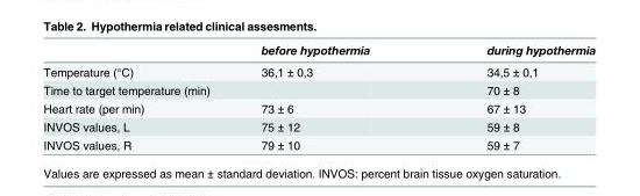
<table><thead><tr><td></td><td>before hypothermia</td><td>during hypothermia</td></tr></thead><tbody><tr><td>Temperature (°C)</td><td>36,1 ± 0,3</td><td>34,5 ± 0,1</td></tr><tr><td colspan="2">Time to target temperature (min)</td><td>70 ± 8</td></tr><tr><td>Heart rate (per min)</td><td>73 ± 6</td><td>67 ± 13</td></tr><tr><td>INVOS values, L</td><td>75 ± 12</td><td>59 ± 8</td></tr><tr><td>INVOS values, R</td><td>79 ± 10</td><td>59 ± 7</td></tr></tbody></table>